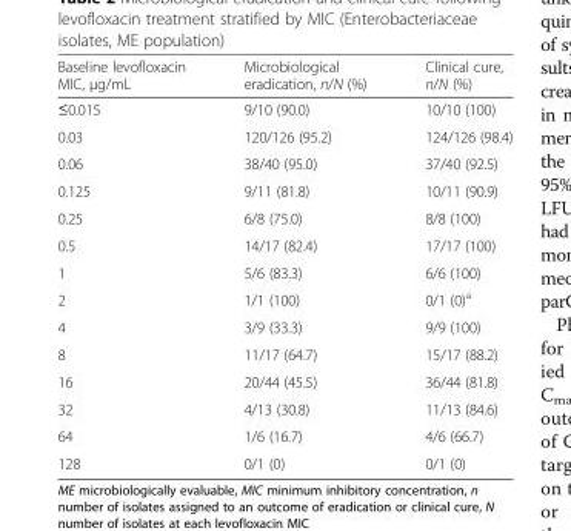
<table><thead><tr><td>Baseline levofloxacin MIC, μg/mL</td><td>Microbiological eradication, n/N (%)</td><td>Clinical cure, n/N (%)</td></tr></thead><tbody><tr><td>≤0.015</td><td>9/10 (90.0)</td><td>10/10 (100)</td></tr><tr><td>0.03</td><td>120/126 (95.2)</td><td>124/126 (98.4)</td></tr><tr><td>0.06</td><td>38/40 (95.0)</td><td>37/40 (92.5)</td></tr><tr><td>0.125</td><td>9/11 (81.8)</td><td>10/11 (90.9)</td></tr><tr><td>0.25</td><td>6/8 (75.0)</td><td>8/8 (100)</td></tr><tr><td>0.5</td><td>14/17 (82.4)</td><td>17/17 (100)</td></tr><tr><td>1</td><td>5/6 (83.3)</td><td>6/6 (100)</td></tr><tr><td>2</td><td>1/1 (100)</td><td>0/1 (0)<sup>a</sup></td></tr><tr><td>4</td><td>3/9 (33.3)</td><td>9/9 (100)</td></tr><tr><td>8</td><td>11/17 (64.7)</td><td>15/17 (88.2)</td></tr><tr><td>16</td><td>20/44 (45.5)</td><td>36/44 (81.8)</td></tr><tr><td>32</td><td>4/13 (30.8)</td><td>11/13 (84.6)</td></tr><tr><td>64</td><td>1/6 (16.7)</td><td>4/6 (66.7)</td></tr><tr><td>128</td><td>0/1 (0)</td><td>0/1 (0)</td></tr></tbody></table>